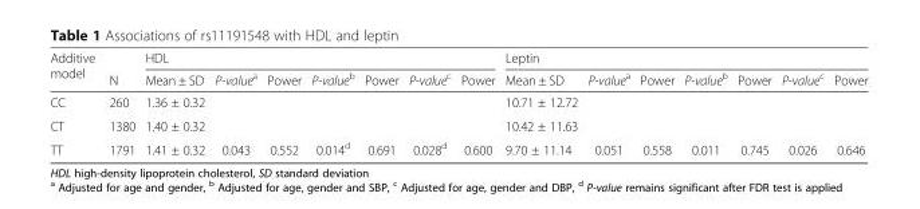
<table><thead><tr><td rowspan="2">Additive model</td><td rowspan="2">N</td><td colspan="7">HDL</td><td colspan="7">Leptin</td></tr><tr><td>Mean ± SD</td><td>P-value<sup>a</sup></td><td>Power</td><td>P-value<sup>b</sup></td><td>Power</td><td>P-value<sup>c</sup></td><td>Power</td><td>Mean ± SD</td><td>P-value<sup>a</sup></td><td>Power</td><td>P-value<sup>b</sup></td><td>Power</td><td>P-value<sup>c</sup></td><td>Power</td></tr></thead><tbody><tr><td>CC</td><td>260</td><td>1.36 ± 0.32</td><td></td><td></td><td></td><td></td><td></td><td></td><td>10.71 ± 12.72</td><td></td><td></td><td></td><td></td><td></td><td></td></tr><tr><td>CT</td><td>1380</td><td>1.40 ± 0.32</td><td></td><td></td><td></td><td></td><td></td><td></td><td>10.42 ± 11.63</td><td></td><td></td><td></td><td></td><td></td><td></td></tr><tr><td>TT</td><td>1791</td><td>1.41 ± 0.32</td><td>0.043</td><td>0.552</td><td>0.014<sup>d</sup></td><td>0.691</td><td>0.028<sup>d</sup></td><td>0.600</td><td>9.70 ± 11.14</td><td>0.051</td><td>0.558</td><td>0.011</td><td>0.745</td><td>0.026</td><td>0.646</td></tr></tbody></table>